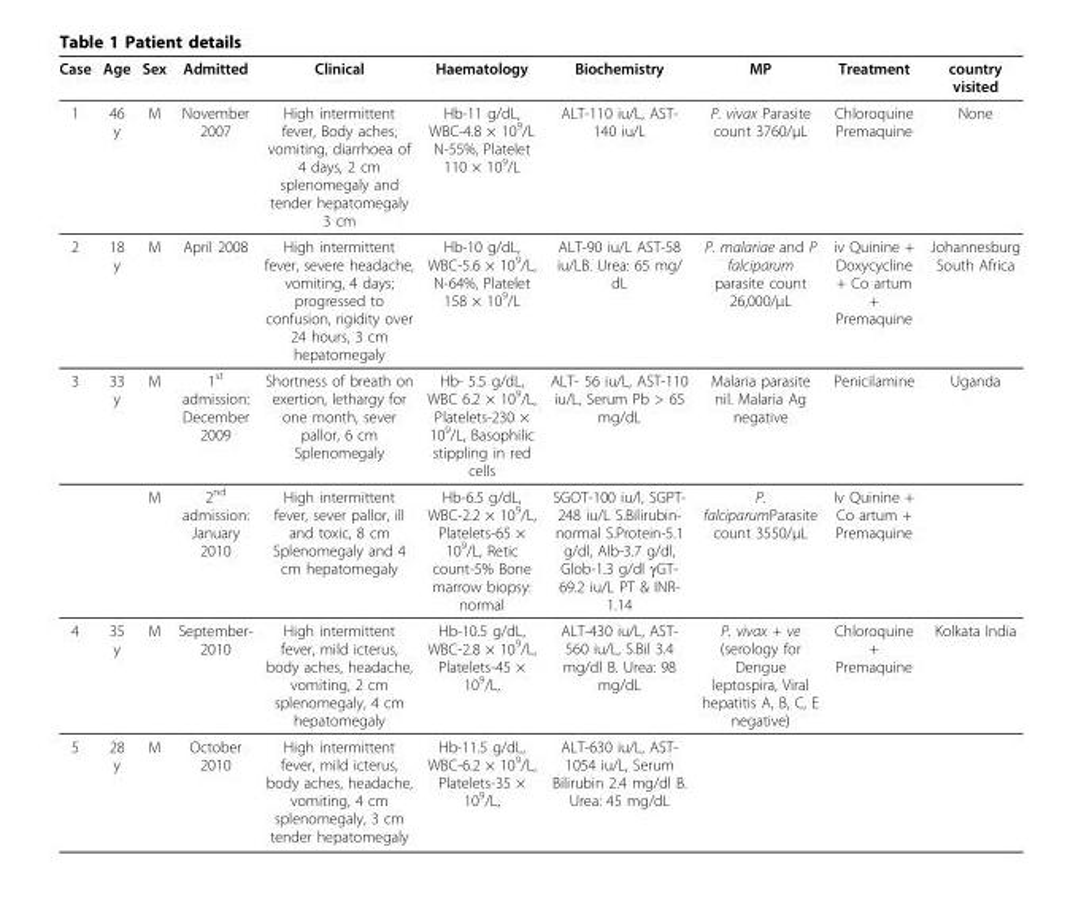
<table><thead><tr><td>Case</td><td>Age</td><td>Sex</td><td>Admitted</td><td>Clinical</td><td>Haematology</td><td>Biochemistry</td><td>MP</td><td>Treatment</td><td>country visited</td></tr></thead><tbody><tr><td>1</td><td>46 y</td><td>M</td><td>November 2007</td><td>High intermittent fever, Body aches, vomiting, diarrhoea of 4 days, 2 cm splenomegaly and tender hepatomegaly 3 cm</td><td>Hb-11 g/dL, WBC-4.8 × 10<sup>9</sup>/L N-55%, Platelet 110 × 10<sup>9</sup>/L</td><td>ALT-110 iu/L, AST- 140 iu/L</td><td>P. vivax Parasite count 3760/μL</td><td>Chloroquine Premaquine</td><td>None</td></tr><tr><td>2</td><td>18 y</td><td>M</td><td>April 2008</td><td>High intermittent fever, severe headache, vomiting, 4 days; progressed to confusion, rigidity over 24 hours, 3 cm hepatomegaly</td><td>Hb-10 g/dL, WBC-5.6 × 10<sup>9</sup>/L, N-64%, Platelet 158 × 10<sup>9</sup>/L</td><td>ALT-90 iu/L AST-58 iu/LB. Urea: 65 mg/ dL</td><td>P. malariae and P falciparum parasite count 26,000/μL</td><td>iv Quinine + Doxycycline + Co artum + Premaquine</td><td>Johannesburg South Africa</td></tr><tr><td rowspan="2">3</td><td>33 y</td><td>M</td><td>1<sup>st</sup> admission: December 2009</td><td>Shortness of breath on exertion, lethargy for one month, sever pallor, 6 cm Splenomegaly</td><td>Hb- 5.5 g/dL, WBC 6.2 × 10<sup>9</sup>/L, Platelets-230 × 10<sup>9</sup>/L, Basophilic stippling in red cells</td><td>ALT- 56 iu/L, AST-110 iu/L, Serum Pb &gt; 65 mg/dL</td><td>Malaria parasite nil. Malaria Ag negative</td><td>Penicilamine</td><td>Uganda</td></tr><tr><td></td><td>M</td><td>2<sup>nd</sup> admission: January 2010</td><td>High intermittent fever, sever pallor, ill and toxic, 8 cm Splenomegaly and 4 cm hepatomegaly</td><td>Hb-6.5 g/dL, WBC-2.2 × 10<sup>9</sup>/L, Platelets-65 × 10<sup>9</sup>/L, Retic count-5% Bone marrow biopsy: normal</td><td>SGOT-100 iu/l, SGPT- 248 iu/L S.Bilirubin- normal S.Protein-5.1 g/dl, Alb-3.7 g/dl, Glob-1.3 g/dl γGT- 69.2 iu/L PT &amp; INR- 1.14</td><td>P. falciparumParasite count 3550/μL</td><td>Iv Quinine + Co artum + Premaquine</td><td></td></tr><tr><td>4</td><td>35 y</td><td>M</td><td>September- 2010</td><td>High intermittent fever, mild icterus, body aches, headache, vomiting, 2 cm splenomegaly, 4 cm hepatomegaly</td><td>Hb-10.5 g/dL, WBC-2.8 × 10<sup>9</sup>/L, Platelets-45 × 10<sup>9</sup>/L,</td><td>ALT-430 iu/L, AST- 560 iu/L, S.Bil 3.4 mg/dl B. Urea: 98 mg/dL</td><td>P. vivax + ve (serology for Dengue leptospira, Viral hepatitis A, B, C, E negative)</td><td>Chloroquine + Premaquine</td><td>Kolkata India</td></tr><tr><td>5</td><td>28 y</td><td>M</td><td>October 2010</td><td>High intermittent fever, mild icterus, body aches, headache, vomiting, 4 cm splenomegaly, 3 cm tender hepatomegaly</td><td>Hb-11.5 g/dL, WBC-6.2 × 10<sup>9</sup>/L, Platelets-35 × 10<sup>9</sup>/L,</td><td>ALT-630 iu/L, AST- 1054 iu/L, Serum Bilirubin 2.4 mg/dl B. Urea: 45 mg/dL</td><td></td><td></td><td></td></tr></tbody></table>